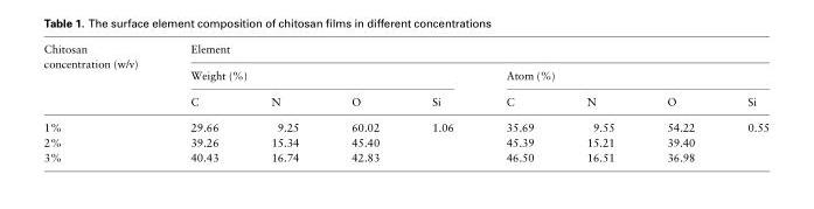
<table><thead><tr><td rowspan="3">Chitosan concentration (w/v)</td><td colspan="8">Element</td></tr><tr><td colspan="4">Weight (%)</td><td colspan="4">Atom (%)</td></tr><tr><td>C</td><td>N</td><td>O</td><td>Si</td><td>C</td><td>N</td><td>O</td><td>Si</td></tr></thead><tbody><tr><td>1%</td><td>29.66</td><td>9.25</td><td>60.02</td><td>1.06</td><td>35.69</td><td>9.55</td><td>54.22</td><td>0.55</td></tr><tr><td>2%</td><td>39.26</td><td>15.34</td><td>45.40</td><td></td><td>45.39</td><td>15.21</td><td>39.40</td><td></td></tr><tr><td>3%</td><td>40.43</td><td>16.74</td><td>42.83</td><td></td><td>46.50</td><td>16.51</td><td>36.98</td><td></td></tr></tbody></table>